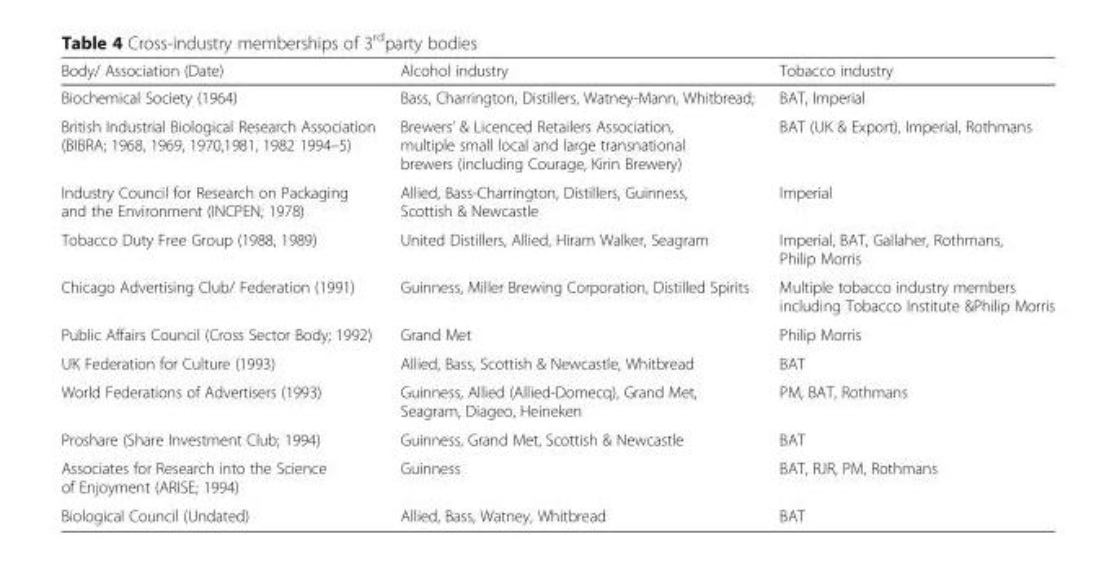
<table><thead><tr><td>Body/ Association (Date)</td><td>Alcohol industry</td><td>Tobacco industry</td></tr></thead><tbody><tr><td>Biochemical Society (1964)</td><td>Bass, Charrington, Distillers, Watney-Mann, Whitbread;</td><td>BAT, Imperial</td></tr><tr><td>British Industrial Biological Research Association (BIBRA; 1968, 1969, 1970,1981, 1982 1994–5)</td><td>Brewers’ &amp; Licenced Retailers Association, multiple small local and large transnational brewers (including Courage, Kirin Brewery)</td><td>BAT (UK &amp; Export), Imperial, Rothmans</td></tr><tr><td>Industry Council for Research on Packaging and the Environment (INCPEN; 1978)</td><td>Allied, Bass-Charrington, Distillers, Guinness, Scottish &amp; Newcastle</td><td>Imperial</td></tr><tr><td>Tobacco Duty Free Group (1988, 1989)</td><td>United Distillers, Allied, Hiram Walker, Seagram</td><td>Imperial, BAT, Gallaher, Rothmans, Philip Morris</td></tr><tr><td>Chicago Advertising Club/ Federation (1991)</td><td>Guinness, Miller Brewing Corporation, Distilled Spirits</td><td>Multiple tobacco industry members including Tobacco Institute &amp;Philip Morris</td></tr><tr><td>Public Affairs Council (Cross Sector Body; 1992)</td><td>Grand Met</td><td>Philip Morris</td></tr><tr><td>UK Federation for Culture (1993)</td><td>Allied, Bass, Scottish &amp; Newcastle, Whitbread</td><td>BAT</td></tr><tr><td>World Federations of Advertisers (1993)</td><td>Guinness, Allied (Allied-Domecq), Grand Met, Seagram, Diageo, Heineken</td><td>PM, BAT, Rothmans</td></tr><tr><td>Proshare (Share Investment Club; 1994)</td><td>Guinness, Grand Met, Scottish &amp; Newcastle</td><td>BAT</td></tr><tr><td>Associates for Research into the Science of Enjoyment (ARISE; 1994)</td><td>Guinness</td><td>BAT, RJR, PM, Rothmans</td></tr><tr><td>Biological Council (Undated)</td><td>Allied, Bass, Watney, Whitbread</td><td>BAT</td></tr></tbody></table>